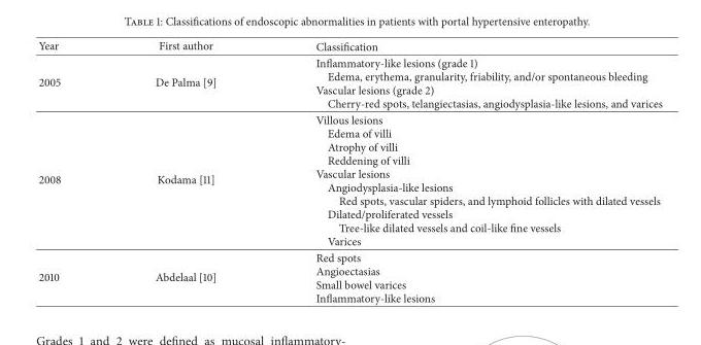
<table><thead><tr><td>Year</td><td>First author</td><td>Classification</td></tr></thead><tbody><tr><td>2005</td><td>De Palma [9]</td><td>Inflammatory-like lesions (grade 1) Edema, erythema, granularity, friability, and/or spontaneous bleeding Vascular lesions (grade 2) Cherry-red spots, telangiectasias, angiodysplasia-like lesions, and varices</td></tr><tr><td>2008</td><td>Kodama [11]</td><td>Villous lesions Edema of villi Atrophy of villi Reddening of villi Vascular lesions Angiodysplasia-like lesions Red spots, vascular spiders, and lymphoid follicles with dilated vessels Dilated/proliferated vessels Tree-like dilated vessels and coil-like fine vessels Varices</td></tr><tr><td>2010</td><td>Abdelaal [10]</td><td>Red spots Angioectasias Small bowel varices Inflammatory-like lesions</td></tr></tbody></table>